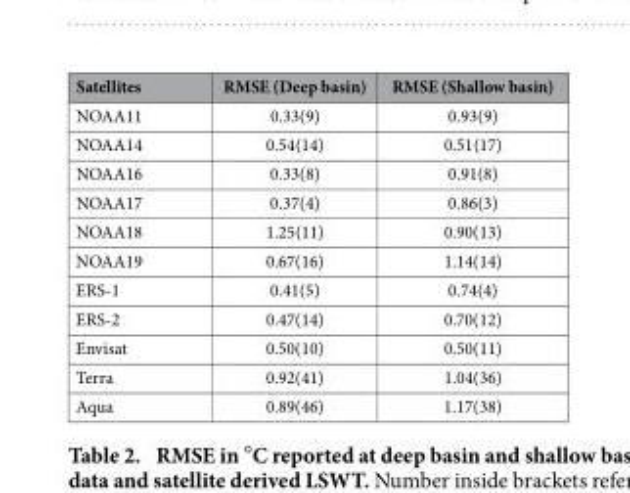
<table><thead><tr><td>Satellites</td><td>RMSE (Deep basin)</td><td>RMSE (Shallow basin)</td></tr></thead><tbody><tr><td>NOAA11</td><td>0.33(9)</td><td>0.93(9)</td></tr><tr><td>NOAA14</td><td>0.54(14)</td><td>0.51(17)</td></tr><tr><td>NOAA16</td><td>0.33(8)</td><td>0.91(8)</td></tr><tr><td>NOAA17</td><td>0.37(4)</td><td>0.86(3)</td></tr><tr><td>NOAA18</td><td>1.25(11)</td><td>0.90(13)</td></tr><tr><td>NOAA19</td><td>0.67(16)</td><td>1.14(14)</td></tr><tr><td>ERS-1</td><td>0.41(5)</td><td>0.74(4)</td></tr><tr><td>ERS-2</td><td>0.47(14)</td><td>0.70(12)</td></tr><tr><td>Envisat</td><td>0.50(10)</td><td>0.50(11)</td></tr><tr><td>Terra</td><td>0.92(41)</td><td>1.04(36)</td></tr><tr><td>Aqua</td><td>0.89(46)</td><td>1.17(38)</td></tr></tbody></table>